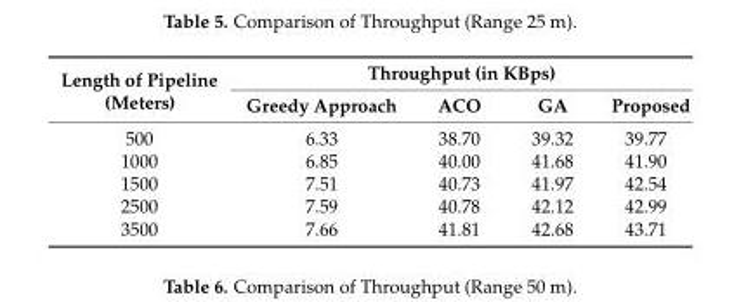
<table><thead><tr><td rowspan="2">Length of Pipeline (Meters)</td><td colspan="4">Throughput (in KBps)</td></tr><tr><td>Greedy Approach</td><td>ACO</td><td>GA</td><td>Proposed</td></tr></thead><tbody><tr><td>500</td><td>6.33</td><td>38.70</td><td>39.32</td><td>39.77</td></tr><tr><td>1000</td><td>6.85</td><td>40.00</td><td>41.68</td><td>41.90</td></tr><tr><td>1500</td><td>7.51</td><td>40.73</td><td>41.97</td><td>42.54</td></tr><tr><td>2500</td><td>7.59</td><td>40.78</td><td>42.12</td><td>42.99</td></tr><tr><td>3500</td><td>7.66</td><td>41.81</td><td>42.68</td><td>43.71</td></tr></tbody></table>